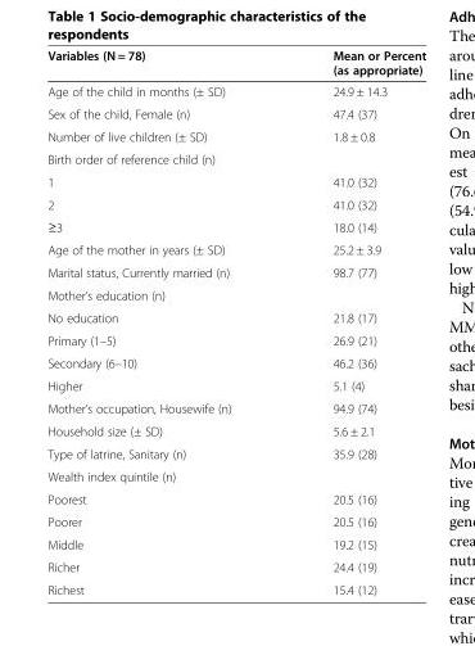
<table><thead><tr><td>Variables (N = 78)</td><td>Mean or Percent (as appropriate)</td></tr></thead><tbody><tr><td>Age of the child in months (± SD)</td><td>24.9 ± 14.3</td></tr><tr><td>Sex of the child, Female (n)</td><td>47.4 (37)</td></tr><tr><td>Number of live children (± SD)</td><td>1.8 ± 0.8</td></tr><tr><td colspan="2">Birth order of reference child (n)</td></tr><tr><td>1</td><td>41.0 (32)</td></tr><tr><td>2</td><td>41.0 (32)</td></tr><tr><td>≥3</td><td>18.0 (14)</td></tr><tr><td>Age of the mother in years (± SD)</td><td>25.2 ± 3.9</td></tr><tr><td>Marital status, Currently married (n)</td><td>98.7 (77)</td></tr><tr><td colspan="2">Mother’s education (n)</td></tr><tr><td>No education</td><td>21.8 (17)</td></tr><tr><td>Primary (1–5)</td><td>26.9 (21)</td></tr><tr><td>Secondary (6–10)</td><td>46.2 (36)</td></tr><tr><td>Higher</td><td>5.1 (4)</td></tr><tr><td>Mother’s occupation, Housewife (n)</td><td>94.9 (74)</td></tr><tr><td>Household size (± SD)</td><td>5.6 ± 2.1</td></tr><tr><td>Type of latrine, Sanitary (n)</td><td>35.9 (28)</td></tr><tr><td colspan="2">Wealth index quintile (n)</td></tr><tr><td>Poorest</td><td>20.5 (16)</td></tr><tr><td>Poorer</td><td>20.5 (16)</td></tr><tr><td>Middle</td><td>19.2 (15)</td></tr><tr><td>Richer</td><td>24.4 (19)</td></tr><tr><td>Richest</td><td>15.4 (12)</td></tr></tbody></table>